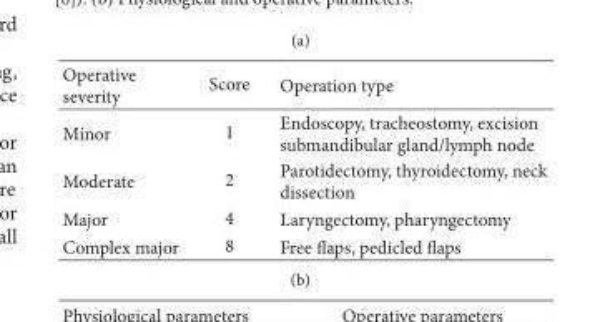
<table><thead><tr><td>Operative severity</td><td>Score</td><td>Operation type</td></tr></thead><tbody><tr><td>Minor</td><td>1</td><td>Endoscopy, tracheostomy, excision submandibular gland/lymph node</td></tr><tr><td>Moderate</td><td>2</td><td>Parotidectomy, thyroidectomy, neck dissection</td></tr><tr><td>Major</td><td>4</td><td>Laryngectomy, pharyngectomy</td></tr><tr><td>Complex major</td><td>8</td><td>Free flaps, pedicled flaps</td></tr></tbody></table>